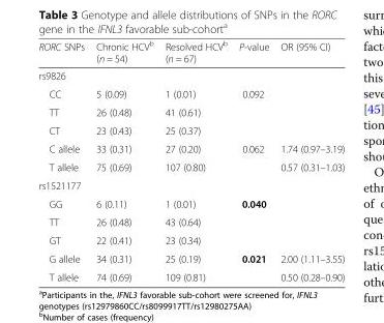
<table><thead><tr><td>RORC SNPs</td><td>Chronic HCV<sup>b</sup> (n = 54)</td><td>Resolved HCV<sup>b</sup> (n = 67)</td><td>P-value</td><td>OR (95% CI)</td></tr></thead><tbody><tr><td colspan="5">rs9826</td></tr><tr><td>CC</td><td>5 (0.09)</td><td>1 (0.01)</td><td rowspan="3">0.092</td><td rowspan="3"></td></tr><tr><td>TT</td><td>26 (0.48)</td><td>41 (0.61)</td></tr><tr><td>CT</td><td>23 (0.43)</td><td>25 (0.37)</td></tr><tr><td>C allele</td><td>33 (0.31)</td><td>27 (0.20)</td><td rowspan="2">0.062</td><td>1.74 (0.97–3.19)</td></tr><tr><td>T allele</td><td>75 (0.69)</td><td>107 (0.80)</td><td>0.57 (0.31–1.03)</td></tr><tr><td colspan="5">rs1521177</td></tr><tr><td>GG</td><td>6 (0.11)</td><td>1 (0.01)</td><td rowspan="3">0.040</td><td rowspan="3"></td></tr><tr><td>TT</td><td>26 (0.48)</td><td>43 (0.64)</td></tr><tr><td>GT</td><td>22 (0.41)</td><td>23 (0.34)</td></tr><tr><td>G allele</td><td>34 (0.31)</td><td>25 (0.19)</td><td rowspan="2">0.021</td><td>2.00 (1.11–3.55)</td></tr><tr><td>T allele</td><td>74 (0.69)</td><td>109 (0.81)</td><td>0.50 (0.28–0.90)</td></tr></tbody></table>